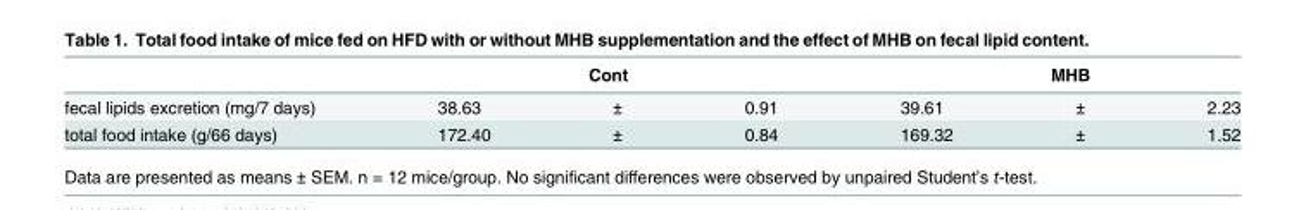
<table><thead><tr><td rowspan="2">fecal lipids excretion (mg/7 days)</td><td colspan="3">Cont</td><td colspan="3">MHB</td></tr><tr><td>38.63</td><td>±</td><td>0.91</td><td>39.61</td><td>±</td><td>2.23</td></tr></thead><tbody><tr><td>total food intake (g/66 days)</td><td>172.40</td><td>±</td><td>0.84</td><td>169.32</td><td>±</td><td>1.52</td></tr></tbody></table>